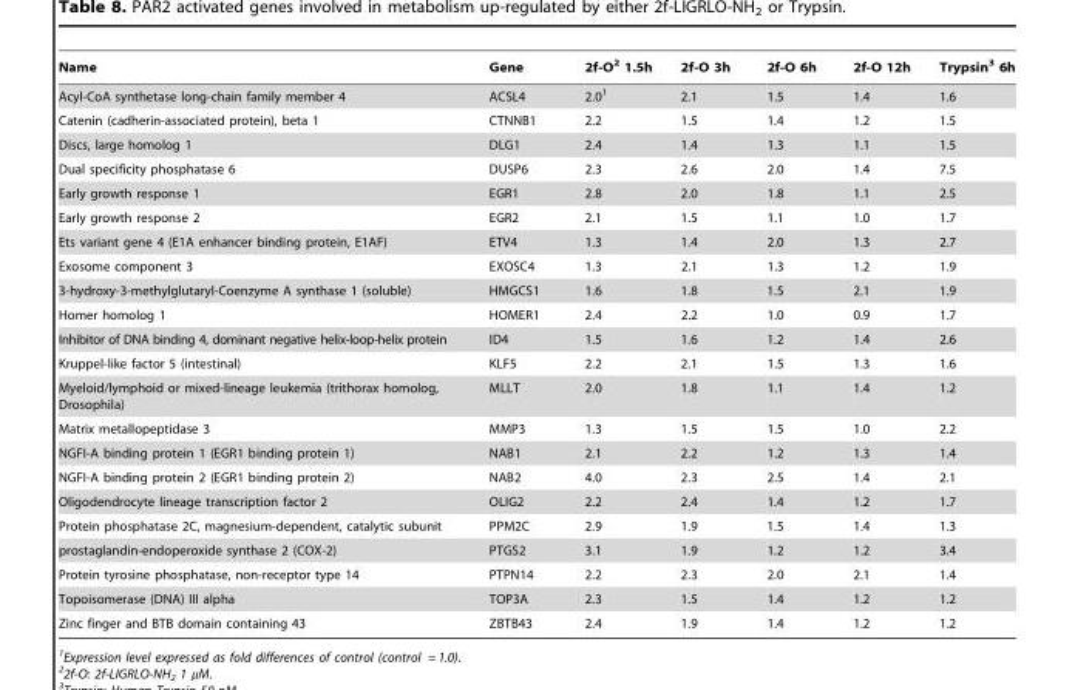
<table><thead><tr><td>Name</td><td>Gene</td><td>2f-O<sup>2</sup> 1.5h</td><td>2f-O 3h</td><td>2f-O 6h</td><td>2f-O 12h</td><td>Trypsin<sup>3</sup> 6h</td></tr></thead><tbody><tr><td>Acyl-CoA synthetase long-chain family member 4</td><td>ACSL4</td><td>2.0<sup>1</sup></td><td>2.1</td><td>1.5</td><td>1.4</td><td>1.6</td></tr><tr><td>Catenin (cadherin-associated protein), beta 1</td><td>CTNNB1</td><td>2.2</td><td>1.5</td><td>1.4</td><td>1.2</td><td>1.5</td></tr><tr><td>Discs, large homolog 1</td><td>DLG1</td><td>2.4</td><td>1.4</td><td>1.3</td><td>1.1</td><td>1.5</td></tr><tr><td>Dual specificity phosphatase 6</td><td>DUSP6</td><td>2.3</td><td>2.6</td><td>2.0</td><td>1.4</td><td>7.5</td></tr><tr><td>Early growth response 1</td><td>EGR1</td><td>2.8</td><td>2.0</td><td>1.8</td><td>1.1</td><td>2.5</td></tr><tr><td>Early growth response 2</td><td>EGR2</td><td>2.1</td><td>1.5</td><td>1.1</td><td>1.0</td><td>1.7</td></tr><tr><td>Ets variant gene 4 (E1A enhancer binding protein, E1AF)</td><td>ETV4</td><td>1.3</td><td>1.4</td><td>2.0</td><td>1.3</td><td>2.7</td></tr><tr><td>Exosome component 3</td><td>EXOSC4</td><td>1.3</td><td>2.1</td><td>1.3</td><td>1.2</td><td>1.9</td></tr><tr><td>3-hydroxy-3-methylglutaryl-Coenzyme A synthase 1 (soluble)</td><td>HMGCS1</td><td>1.6</td><td>1.8</td><td>1.5</td><td>2.1</td><td>1.9</td></tr><tr><td>Homer homolog 1</td><td>HOMER1</td><td>2.4</td><td>2.2</td><td>1.0</td><td>0.9</td><td>1.7</td></tr><tr><td>Inhibitor of DNA binding 4, dominant negative helix-loop-helix protein</td><td>ID4</td><td>1.5</td><td>1.6</td><td>1.2</td><td>1.4</td><td>2.6</td></tr><tr><td>Kruppel-like factor 5 (intestinal)</td><td>KLF5</td><td>2.2</td><td>2.1</td><td>1.5</td><td>1.3</td><td>1.6</td></tr><tr><td>Myeloid/lymphoid or mixed-lineage leukemia (trithorax homolog, Drosophila)</td><td>MLLT</td><td>2.0</td><td>1.8</td><td>1.1</td><td>1.4</td><td>1.2</td></tr><tr><td>Matrix metallopeptidase 3</td><td>MMP3</td><td>1.3</td><td>1.5</td><td>1.5</td><td>1.0</td><td>2.2</td></tr><tr><td>NGFI-A binding protein 1 (EGR1 binding protein 1)</td><td>NAB1</td><td>2.1</td><td>2.2</td><td>1.2</td><td>1.3</td><td>1.4</td></tr><tr><td>NGFI-A binding protein 2 (EGR1 binding protein 2)</td><td>NAB2</td><td>4.0</td><td>2.3</td><td>2.5</td><td>1.4</td><td>2.1</td></tr><tr><td>Oligodendrocyte lineage transcription factor 2</td><td>OLIG2</td><td>2.2</td><td>2.4</td><td>1.4</td><td>1.2</td><td>1.7</td></tr><tr><td>Protein phosphatase 2C, magnesium-dependent, catalytic subunit</td><td>PPM2C</td><td>2.9</td><td>1.9</td><td>1.5</td><td>1.4</td><td>1.3</td></tr><tr><td>prostaglandin-endoperoxide synthase 2 (COX-2)</td><td>PTGS2</td><td>3.1</td><td>1.9</td><td>1.2</td><td>1.2</td><td>3.4</td></tr><tr><td>Protein tyrosine phosphatase, non-receptor type 14</td><td>PTPN14</td><td>2.2</td><td>2.3</td><td>2.0</td><td>2.1</td><td>1.4</td></tr><tr><td>Topoisomerase (DNA) III alpha</td><td>TOP3A</td><td>2.3</td><td>1.5</td><td>1.4</td><td>1.2</td><td>1.2</td></tr><tr><td>Zinc finger and BTB domain containing 43</td><td>ZBTB43</td><td>2.4</td><td>1.9</td><td>1.4</td><td>1.2</td><td>1.2</td></tr></tbody></table>